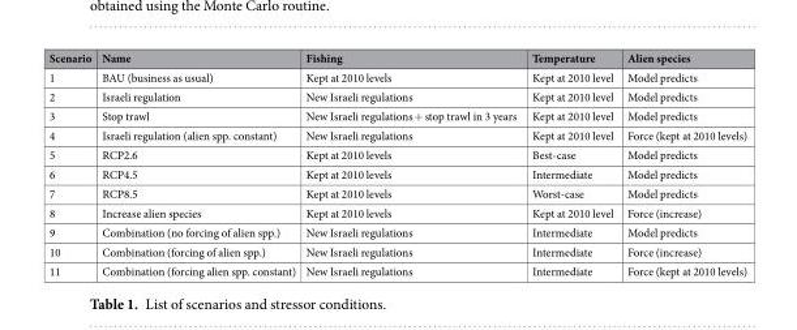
<table><thead><tr><td>Scenario</td><td>Name</td><td>Fishing</td><td>Temperature</td><td>Alien species</td></tr></thead><tbody><tr><td>1</td><td>BAU (business as usual)</td><td>Kept at 2010 levels</td><td>Kept at 2010 level</td><td>Model predicts</td></tr><tr><td>2</td><td>Israeli regulation</td><td>New Israeli regulations</td><td>Kept at 2010 level</td><td>Model predicts</td></tr><tr><td>3</td><td>Stop trawl</td><td>New Israeli regulations + stop trawl in 3 years</td><td>Kept at 2010 level</td><td>Model predicts</td></tr><tr><td>4</td><td>Israeli regulation (alien spp. constant)</td><td>New Israeli regulations</td><td>Kept at 2010 level</td><td>Force (kept at 2010 levels)</td></tr><tr><td>5</td><td>RCP2.6</td><td>Kept at 2010 levels</td><td>Best-case</td><td>Model predicts</td></tr><tr><td>6</td><td>RCP4.5</td><td>Kept at 2010 levels</td><td>Intermediate</td><td>Model predicts</td></tr><tr><td>7</td><td>RCP8.5</td><td>Kept at 2010 levels</td><td>Worst-case</td><td>Model predicts</td></tr><tr><td>8</td><td>Increase alien species</td><td>Kept at 2010 levels</td><td>Kept at 2010 level</td><td>Force (increase)</td></tr><tr><td>9</td><td>Combination (no forcing of alien spp.)</td><td>New Israeli regulations</td><td>Intermediate</td><td>Model predicts</td></tr><tr><td>10</td><td>Combination (forcing of alien spp.)</td><td>New Israeli regulations</td><td>Intermediate</td><td>Force (increase)</td></tr><tr><td>11</td><td>Combination (forcing alien spp. constant)</td><td>New Israeli regulations</td><td>Intermediate</td><td>Force (kept at 2010 levels)</td></tr></tbody></table>